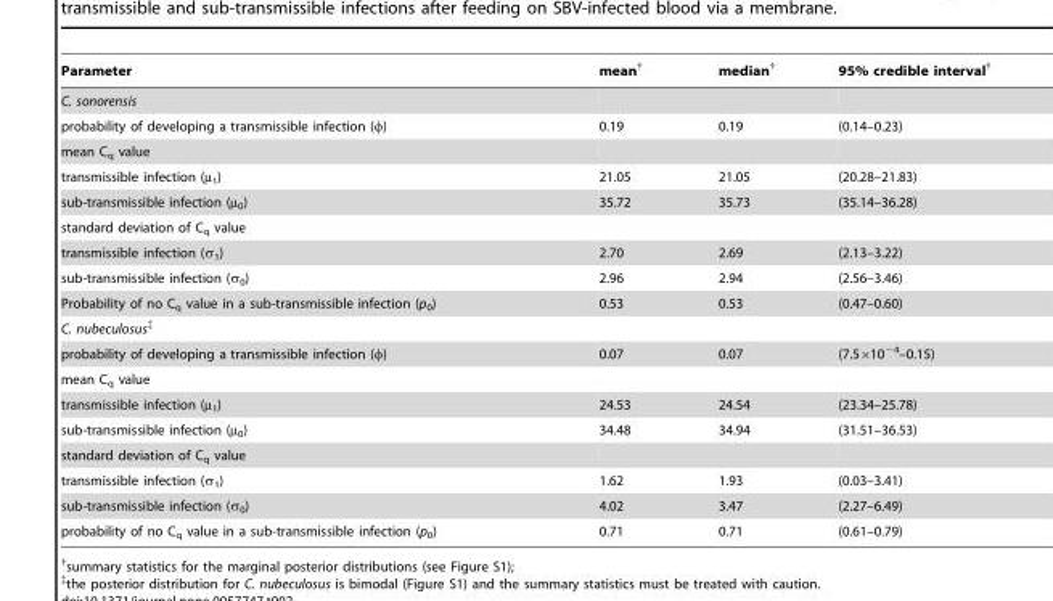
<table><thead><tr><td>Parameter</td><td>mean†</td><td>median†</td><td>95% credible interval†</td></tr></thead><tbody><tr><td colspan="4">C. sonorensis</td></tr><tr><td>probability of developing a transmissible infection (φ)</td><td>0.19</td><td>0.19</td><td>(0.14–0.23)</td></tr><tr><td colspan="4">mean C<sub>q</sub> value</td></tr><tr><td>transmissible infection (µ<sub>1</sub>)</td><td>21.05</td><td>21.05</td><td>(20.28–21.83)</td></tr><tr><td>sub-transmissible infection (µ<sub>0</sub>)</td><td>35.72</td><td>35.73</td><td>(35.14–36.28)</td></tr><tr><td colspan="4">standard deviation of C<sub>q</sub> value</td></tr><tr><td>transmissible infection (σ<sub>1</sub>)</td><td>2.70</td><td>2.69</td><td>(2.13–3.22)</td></tr><tr><td>sub-transmissible infection (σ<sub>0</sub>)</td><td>2.96</td><td>2.94</td><td>(2.56–3.46)</td></tr><tr><td>Probability of no C<sub>q</sub> value in a sub-transmissible infection (p<sub>0</sub>)</td><td>0.53</td><td>0.53</td><td>(0.47–0.60)</td></tr><tr><td colspan="4">C. nubeculosus‡</td></tr><tr><td>probability of developing a transmissible infection (φ)</td><td>0.07</td><td>0.07</td><td>(7.5×10<sup>−4</sup>–0.15)</td></tr><tr><td colspan="4">mean C<sub>q</sub> value</td></tr><tr><td>transmissible infection (µ<sub>1</sub>)</td><td>24.53</td><td>24.54</td><td>(23.34–25.78)</td></tr><tr><td>sub-transmissible infection (µ<sub>0</sub>)</td><td>34.48</td><td>34.94</td><td>(31.51–36.53)</td></tr><tr><td colspan="4">standard deviation of C<sub>q</sub> value</td></tr><tr><td>transmissible infection (σ<sub>1</sub>)</td><td>1.62</td><td>1.93</td><td>(0.03–3.41)</td></tr><tr><td>sub-transmissible infection (σ<sub>0</sub>)</td><td>4.02</td><td>3.47</td><td>(2.27–6.49)</td></tr><tr><td>probability of no C<sub>q</sub> value in a sub-transmissible infection (p<sub>0</sub>)</td><td>0.71</td><td>0.71</td><td>(0.61–0.79)</td></tr></tbody></table>